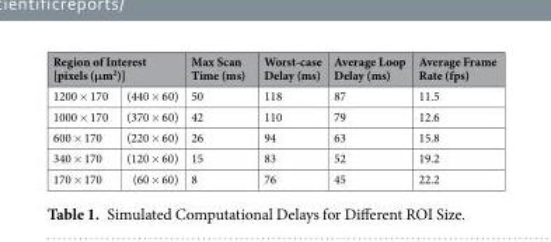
<table><thead><tr><td colspan="2">Region of Interest [pixels (μm<sup>2</sup>)]</td><td rowspan="2">Max Scan Time (ms) 50</td><td rowspan="2">Worst-case Delay (ms) 118</td><td rowspan="2">Average Loop Delay (ms) 87</td><td rowspan="2">Average Frame Rate (fps) 11.5</td></tr><tr><td>1200 × 170</td><td>(440 × 60)</td></tr></thead><tbody><tr><td>1000 × 170</td><td>(370 × 60)</td><td>42</td><td>110</td><td>79</td><td>12.6</td></tr><tr><td>600 × 170</td><td>(220 × 60)</td><td>26</td><td>94</td><td>63</td><td>15.8</td></tr><tr><td>340 × 170</td><td>(120 × 60)</td><td>15</td><td>83</td><td>52</td><td>19.2</td></tr><tr><td>170 × 170</td><td>(60 × 60)</td><td>8</td><td>76</td><td>45</td><td>22.2</td></tr></tbody></table>